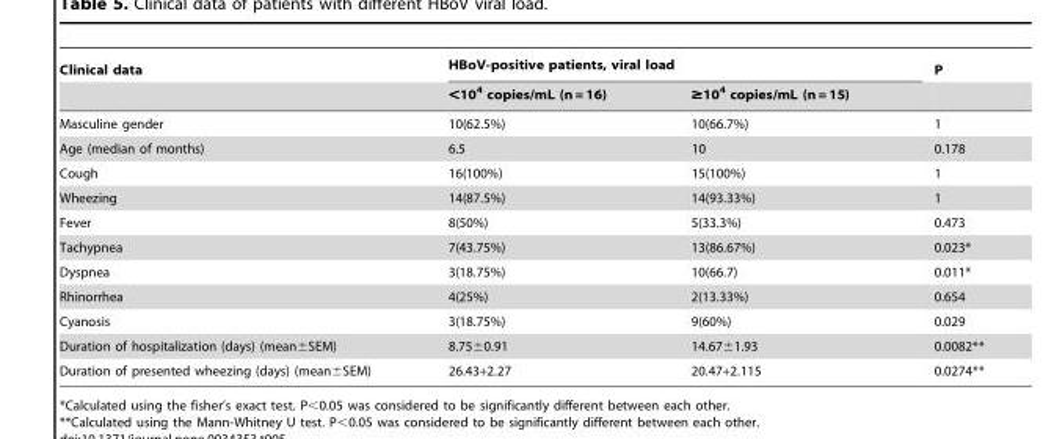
<table><thead><tr><td rowspan="2">Clinical data</td><td colspan="2">HBoV-positive patients, viral load</td><td rowspan="2">P</td></tr><tr><td>&lt;10<sup>4</sup> copies/mL (n = 16)</td><td>≥10<sup>4</sup> copies/mL (n = 15)</td></tr></thead><tbody><tr><td>Masculine gender</td><td>10(62.5%)</td><td>10(66.7%)</td><td>1</td></tr><tr><td>Age (median of months)</td><td>6.5</td><td>10</td><td>0.178</td></tr><tr><td>Cough</td><td>16(100%)</td><td>15(100%)</td><td>1</td></tr><tr><td>Wheezing</td><td>14(87.5%)</td><td>14(93.33%)</td><td>1</td></tr><tr><td>Fever</td><td>8(50%)</td><td>5(33.3%)</td><td>0.473</td></tr><tr><td>Tachypnea</td><td>7(43.75%)</td><td>13(86.67%)</td><td>0.023*</td></tr><tr><td>Dyspnea</td><td>3(18.75%)</td><td>10(66.7)</td><td>0.011*</td></tr><tr><td>Rhinorrhea</td><td>4(25%)</td><td>2(13.33%)</td><td>0.654</td></tr><tr><td>Cyanosis</td><td>3(18.75%)</td><td>9(60%)</td><td>0.029</td></tr><tr><td>Duration of hospitalization (days) (mean±SEM)</td><td>8.75±0.91</td><td>14.67±1.93</td><td>0.0082**</td></tr><tr><td>Duration of presented wheezing (days) (mean±SEM)</td><td>26.43+2.27</td><td>20.47+2.115</td><td>0.0274**</td></tr></tbody></table>